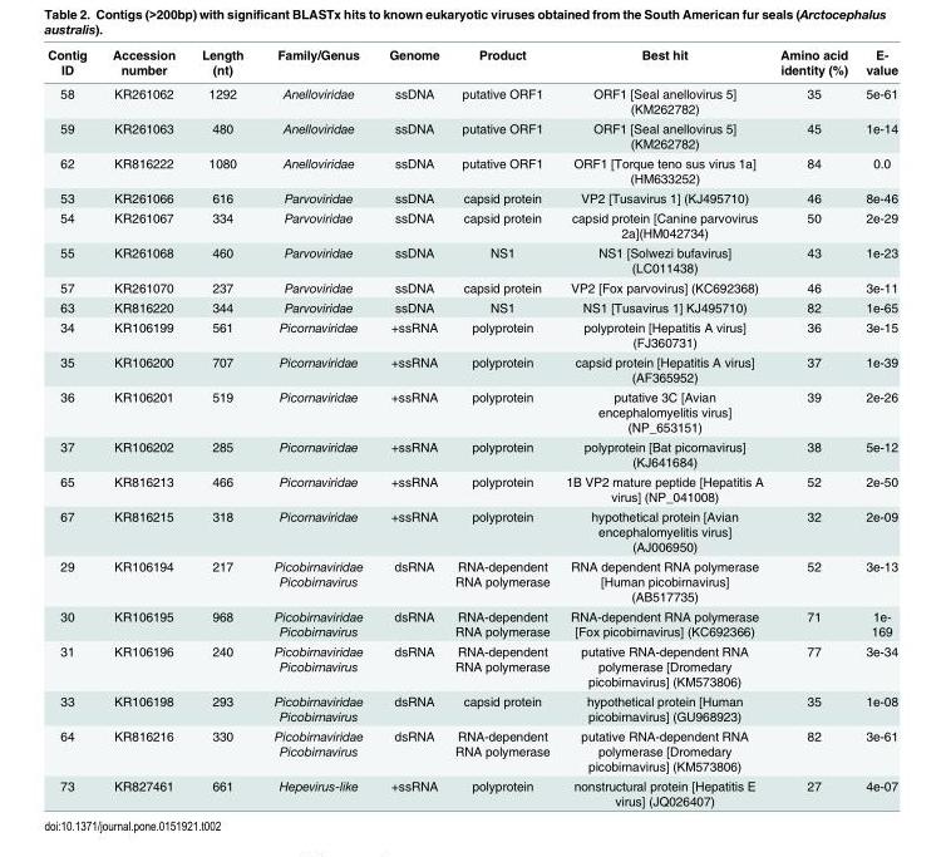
<table><thead><tr><td>Contig ID</td><td>Accession number</td><td>Length (nt)</td><td>Family/Genus</td><td>Genome</td><td>Product</td><td>Best hit</td><td>Amino acid identity (%)</td><td>E- value</td></tr></thead><tbody><tr><td>58</td><td>KR261062</td><td>1292</td><td>Anelloviridae</td><td>ssDNA</td><td>putative ORF1</td><td>ORF1 [Seal anellovirus 5] (KM262782)</td><td>35</td><td>5e-61</td></tr><tr><td>59</td><td>KR261063</td><td>480</td><td>Anelloviridae</td><td>ssDNA</td><td>putative ORF1</td><td>ORF1 [Seal anellovirus 5] (KM262782)</td><td>45</td><td>1e-14</td></tr><tr><td>62</td><td>KR816222</td><td>1080</td><td>Anelloviridae</td><td>ssDNA</td><td>putative ORF1</td><td>ORF1 [Torque teno sus virus 1a] (HM633252)</td><td>84</td><td>0.0</td></tr><tr><td>53</td><td>KR261066</td><td>616</td><td>Parvoviridae</td><td>ssDNA</td><td>capsid protein</td><td>VP2 [Tusavirus 1] (KJ495710)</td><td>46</td><td>8e-46</td></tr><tr><td>54</td><td>KR261067</td><td>334</td><td>Parvoviridae</td><td>ssDNA</td><td>capsid protein</td><td>capsid protein [Canine parvovirus 2a](HM042734)</td><td>50</td><td>2e-29</td></tr><tr><td>55</td><td>KR261068</td><td>460</td><td>Parvoviridae</td><td>ssDNA</td><td>NS1</td><td>NS1 [Solwezi bufavirus] (LC011438)</td><td>43</td><td>1e-23</td></tr><tr><td>57</td><td>KR261070</td><td>237</td><td>Parvoviridae</td><td>ssDNA</td><td>capsid protein</td><td>VP2 [Fox parvovirus] (KC692368)</td><td>46</td><td>3e-11</td></tr><tr><td>63</td><td>KR816220</td><td>344</td><td>Parvoviridae</td><td>ssDNA</td><td>NS1</td><td>NS1 [Tusavirus 1] KJ495710)</td><td>82</td><td>1e-65</td></tr><tr><td>34</td><td>KR106199</td><td>561</td><td>Picornaviridae</td><td>+ssRNA</td><td>polyprotein</td><td>polyprotein [Hepatitis A virus] (FJ360731)</td><td>36</td><td>3e-15</td></tr><tr><td>35</td><td>KR106200</td><td>707</td><td>Picornaviridae</td><td>+ssRNA</td><td>polyprotein</td><td>capsid protein [Hepatitis A virus] (AF365952)</td><td>37</td><td>1e-39</td></tr><tr><td>36</td><td>KR106201</td><td>519</td><td>Picornaviridae</td><td>+ssRNA</td><td>polyprotein</td><td>putative 3C [Avian encephalomyelitis virus] (NP_653151)</td><td>39</td><td>2e-26</td></tr><tr><td>37</td><td>KR106202</td><td>285</td><td>Picornaviridae</td><td>+ssRNA</td><td>polyprotein</td><td>polyprotein [Bat picornavirus] (KJ641684)</td><td>38</td><td>5e-12</td></tr><tr><td>65</td><td>KR816213</td><td>466</td><td>Picornaviridae</td><td>+ssRNA</td><td>polyprotein</td><td>1B VP2 mature peptide [Hepatitis A virus] (NP_041008)</td><td>52</td><td>2e-50</td></tr><tr><td>67</td><td>KR816215</td><td>318</td><td>Picornaviridae</td><td>+ssRNA</td><td>polyprotein</td><td>hypothetical protein [Avian encephalomyelitis virus] (AJ006950)</td><td>32</td><td>2e-09</td></tr><tr><td>29</td><td>KR106194</td><td>217</td><td>Picobirnaviridae Picobirnavirus</td><td>dsRNA</td><td>RNA-dependent RNA polymerase</td><td>RNA dependent RNA polymerase [Human picobirnavirus] (AB517735)</td><td>52</td><td>3e-13</td></tr><tr><td>30</td><td>KR106195</td><td>968</td><td>Picobirnaviridae Picobirnavirus</td><td>dsRNA</td><td>RNA-dependent RNA polymerase</td><td>RNA-dependent RNA polymerase [Fox picobirnavirus] (KC692366)</td><td>71</td><td>1e- 169</td></tr><tr><td>31</td><td>KR106196</td><td>240</td><td>Picobirnaviridae Picobirnavirus</td><td>dsRNA</td><td>RNA-dependent RNA polymerase</td><td>putative RNA-dependent RNA polymerase [Dromedary picobirnavirus] (KM573806)</td><td>77</td><td>3e-34</td></tr><tr><td>33</td><td>KR106198</td><td>293</td><td>Picobirnaviridae Picobirnavirus</td><td>dsRNA</td><td>capsid protein</td><td>hypothetical protein [Human picobirnavirus] (GU968923)</td><td>35</td><td>1e-08</td></tr><tr><td>64</td><td>KR816216</td><td>330</td><td>Picobirnaviridae Picobirnavirus</td><td>dsRNA</td><td>RNA-dependent RNA polymerase</td><td>putative RNA-dependent RNA polymerase [Dromedary picobirnavirus] (KM573806)</td><td>82</td><td>3e-61</td></tr><tr><td>73</td><td>KR827461</td><td>661</td><td>Hepevirus-like</td><td>+ssRNA</td><td>polyprotein</td><td>nonstructural protein [Hepatitis E virus] (JQ026407)</td><td>27</td><td>4e-07</td></tr></tbody></table>